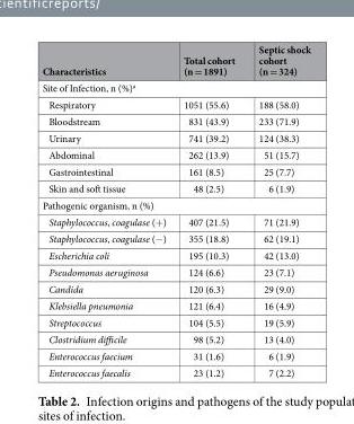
<table><thead><tr><td>Characteristics</td><td>Total cohort (n = 1891)</td><td>Septic shock cohort (n = 324)</td></tr></thead><tbody><tr><td colspan="3">Site of Infection, n (%)<sup>a</sup></td></tr><tr><td>Respiratory</td><td>1051 (55.6)</td><td>188 (58.0)</td></tr><tr><td>Bloodstream</td><td>831 (43.9)</td><td>233 (71.9)</td></tr><tr><td>Urinary</td><td>741 (39.2)</td><td>124 (38.3)</td></tr><tr><td>Abdominal</td><td>262 (13.9)</td><td>51 (15.7)</td></tr><tr><td>Gastrointestinal</td><td>161 (8.5)</td><td>25 (7.7)</td></tr><tr><td>Skin and soft tissue</td><td>48 (2.5)</td><td>6 (1.9)</td></tr><tr><td colspan="3">Pathogenic organism, n (%)</td></tr><tr><td>Staphylococcus, coagulase (+)</td><td>407 (21.5)</td><td>71 (21.9)</td></tr><tr><td>Staphylococcus, coagulase (−)</td><td>355 (18.8)</td><td>62 (19.1)</td></tr><tr><td>Escherichia coli</td><td>195 (10.3)</td><td>42 (13.0)</td></tr><tr><td>Pseudomonas aeruginosa</td><td>124 (6.6)</td><td>23 (7.1)</td></tr><tr><td>Candida</td><td>120 (6.3)</td><td>29 (9.0)</td></tr><tr><td>Klebsiella pneumonia</td><td>121 (6.4)</td><td>16 (4.9)</td></tr><tr><td>Streptococcus</td><td>104 (5.5)</td><td>19 (5.9)</td></tr><tr><td>Clostridium difficile</td><td>98 (5.2)</td><td>13 (4.0)</td></tr><tr><td>Enterococcus faecium</td><td>31 (1.6)</td><td>6 (1.9)</td></tr><tr><td>Enterococcus faecalis</td><td>23 (1.2)</td><td>7 (2.2)</td></tr></tbody></table>